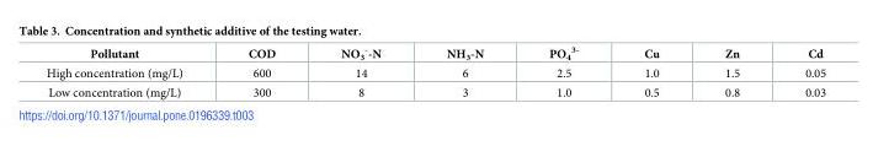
<table><thead><tr><td>Pollutant</td><td>COD</td><td>NO<sub>3</sub> <sup>-</sup>-N</td><td>NH<sub>3</sub>-N</td><td>PO<sub>4</sub> <sup>3-</sup></td><td>Cu</td><td>Zn</td><td>Cd</td></tr></thead><tbody><tr><td>High concentration (mg/L)</td><td>600</td><td>14</td><td>6</td><td>2.5</td><td>1.0</td><td>1.5</td><td>0.05</td></tr><tr><td>Low concentration (mg/L)</td><td>300</td><td>8</td><td>3</td><td>1.0</td><td>0.5</td><td>0.8</td><td>0.03</td></tr></tbody></table>